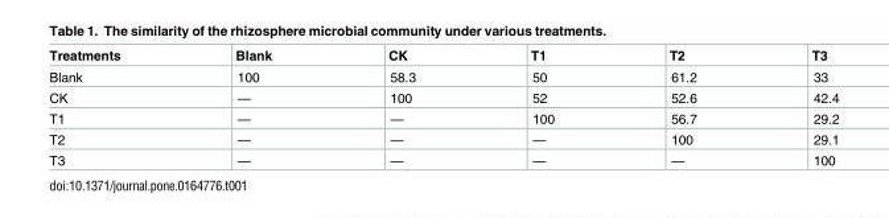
<table><thead><tr><td>Treatments</td><td>Blank</td><td>CK</td><td>T1</td><td>T2</td><td>T3</td></tr></thead><tbody><tr><td>Blank</td><td>100</td><td>58.3</td><td>50</td><td>61.2</td><td>33</td></tr><tr><td>CK</td><td>—</td><td>100</td><td>52</td><td>52.6</td><td>42.4</td></tr><tr><td>T1</td><td>—</td><td>—</td><td>100</td><td>56.7</td><td>29.2</td></tr><tr><td>T2</td><td>—</td><td>—</td><td>—</td><td>100</td><td>29.1</td></tr><tr><td>T3</td><td>—</td><td>—</td><td>—</td><td>—</td><td>100</td></tr></tbody></table>